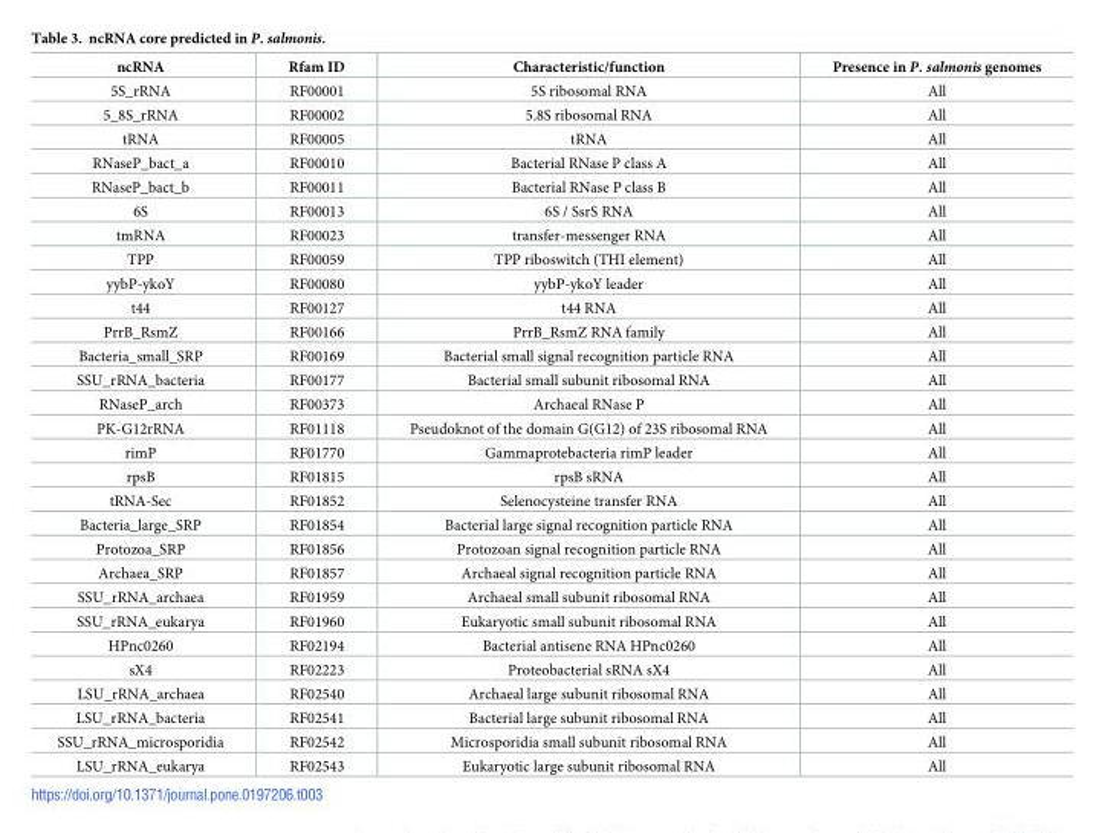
<table><thead><tr><td>ncRNA</td><td>Rfam ID</td><td>Characteristic/function</td><td>Presence in P. salmonis genomes</td></tr></thead><tbody><tr><td>5S_rRNA</td><td>RF00001</td><td>5S ribosomal RNA</td><td>All</td></tr><tr><td>5_8S_rRNA</td><td>RF00002</td><td>5.8S ribosomal RNA</td><td>All</td></tr><tr><td>tRNA</td><td>RF00005</td><td>tRNA</td><td>All</td></tr><tr><td>RNaseP_bact_a</td><td>RF00010</td><td>Bacterial RNase P class A</td><td>All</td></tr><tr><td>RNaseP_bact_b</td><td>RF00011</td><td>Bacterial RNase P class B</td><td>All</td></tr><tr><td>6S</td><td>RF00013</td><td>6S / SsrS RNA</td><td>All</td></tr><tr><td>tmRNA</td><td>RF00023</td><td>transfer-messenger RNA</td><td>All</td></tr><tr><td>TPP</td><td>RF00059</td><td>TPP riboswitch (THI element)</td><td>All</td></tr><tr><td>yybP-ykoY</td><td>RF00080</td><td>yybP-ykoY leader</td><td>All</td></tr><tr><td>t44</td><td>RF00127</td><td>t44 RNA</td><td>All</td></tr><tr><td>PrrB_RsmZ</td><td>RF00166</td><td>PrrB_RsmZ RNA family</td><td>All</td></tr><tr><td>Bacteria_small_SRP</td><td>RF00169</td><td>Bacterial small signal recognition particle RNA</td><td>All</td></tr><tr><td>SSU_rRNA_bacteria</td><td>RF00177</td><td>Bacterial small subunit ribosomal RNA</td><td>All</td></tr><tr><td>RNaseP_arch</td><td>RF00373</td><td>Archaeal RNase P</td><td>All</td></tr><tr><td>PK-G12rRNA</td><td>RF01118</td><td>Pseudoknot of the domain G(G12) of 23S ribosomal RNA</td><td>All</td></tr><tr><td>rimP</td><td>RF01770</td><td>Gammaprotebacteria rimP leader</td><td>All</td></tr><tr><td>rpsB</td><td>RF01815</td><td>rpsB sRNA</td><td>All</td></tr><tr><td>tRNA-Sec</td><td>RF01852</td><td>Selenocysteine transfer RNA</td><td>All</td></tr><tr><td>Bacteria_large_SRP</td><td>RF01854</td><td>Bacterial large signal recognition particle RNA</td><td>All</td></tr><tr><td>Protozoa_SRP</td><td>RF01856</td><td>Protozoan signal recognition particle RNA</td><td>All</td></tr><tr><td>Archaea_SRP</td><td>RF01857</td><td>Archaeal signal recognition particle RNA</td><td>All</td></tr><tr><td>SSU_rRNA_archaea</td><td>RF01959</td><td>Archaeal small subunit ribosomal RNA</td><td>All</td></tr><tr><td>SSU_rRNA_eukarya</td><td>RF01960</td><td>Eukaryotic small subunit ribosomal RNA</td><td>All</td></tr><tr><td>HPnc0260</td><td>RF02194</td><td>Bacterial antisene RNA HPnc0260</td><td>All</td></tr><tr><td>sX4</td><td>RF02223</td><td>Proteobacterial sRNA sX4</td><td>All</td></tr><tr><td>LSU_rRNA_archaea</td><td>RF02540</td><td>Archaeal large subunit ribosomal RNA</td><td>All</td></tr><tr><td>LSU_rRNA_bacteria</td><td>RF02541</td><td>Bacterial large subunit ribosomal RNA</td><td>All</td></tr><tr><td>SSU_rRNA_microsporidia</td><td>RF02542</td><td>Microsporidia small subunit ribosomal RNA</td><td>All</td></tr><tr><td>LSU_rRNA_eukarya</td><td>RF02543</td><td>Eukaryotic large subunit ribosomal RNA</td><td>All</td></tr></tbody></table>